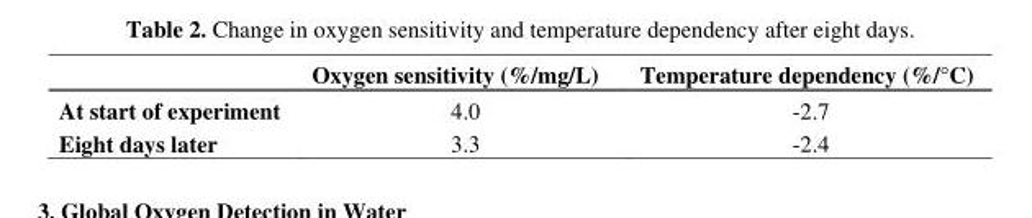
<table><thead><tr><td></td><td>Oxygen sensitivity (%/mg/L)</td><td>Temperature dependency (%/°C)</td></tr></thead><tbody><tr><td>At start of experiment</td><td>4.0</td><td>-2.7</td></tr><tr><td>Eight days later</td><td>3.3</td><td>-2.4</td></tr></tbody></table>